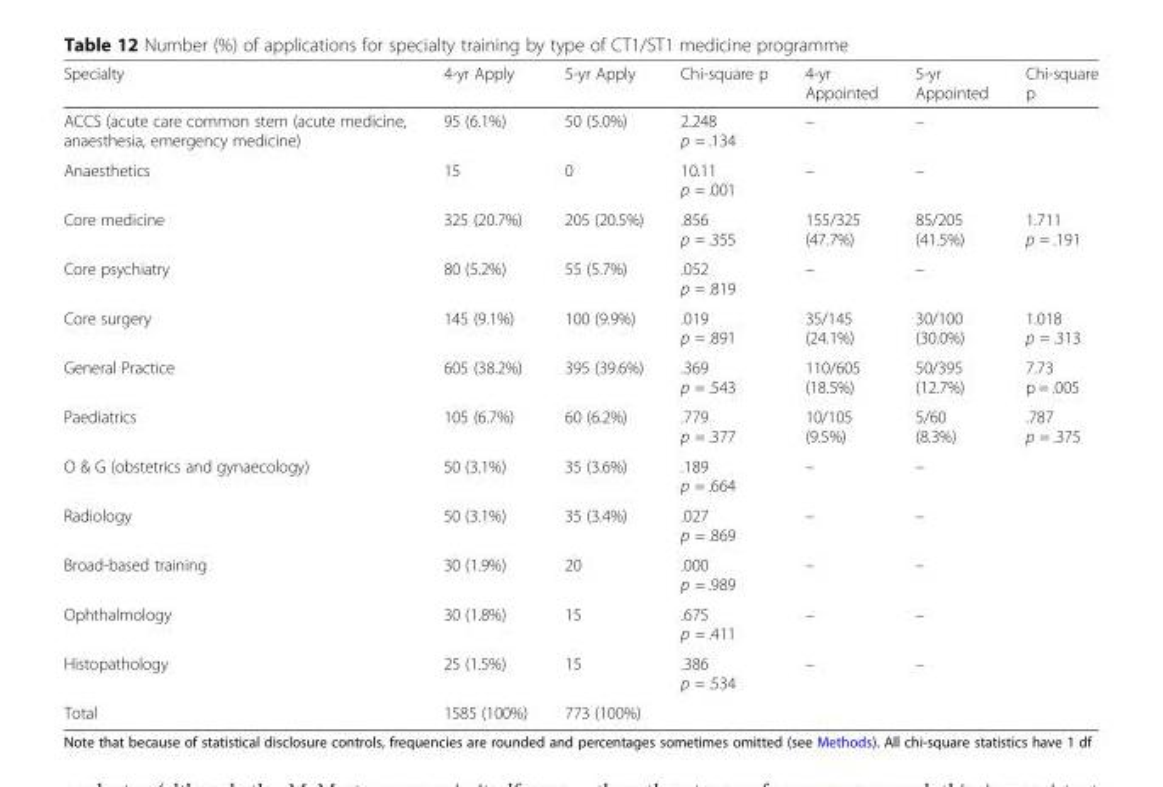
<table><thead><tr><td>Specialty</td><td>4-yr Apply</td><td>5-yr Apply</td><td>Chi-square p</td><td>4-yr Appointed</td><td>5-yr Appointed</td><td>Chi-square p</td></tr></thead><tbody><tr><td>ACCS (acute care common stem (acute medicine, anaesthesia, emergency medicine)</td><td>95 (6.1%)</td><td>50 (5.0%)</td><td>2.248 p = .134</td><td>–</td><td>–</td><td></td></tr><tr><td>Anaesthetics</td><td>15</td><td>0</td><td>10.11 p = .001</td><td>–</td><td>–</td><td></td></tr><tr><td>Core medicine</td><td>325 (20.7%)</td><td>205 (20.5%)</td><td>.856 p = .355</td><td>155/325 (47.7%)</td><td>85/205 (41.5%)</td><td>1.711 p = .191</td></tr><tr><td>Core psychiatry</td><td>80 (5.2%)</td><td>55 (5.7%)</td><td>.052 p = .819</td><td>–</td><td>–</td><td></td></tr><tr><td>Core surgery</td><td>145 (9.1%)</td><td>100 (9.9%)</td><td>.019 p = .891</td><td>35/145 (24.1%)</td><td>30/100 (30.0%)</td><td>1.018 p = .313</td></tr><tr><td>General Practice</td><td>605 (38.2%)</td><td>395 (39.6%)</td><td>.369 p = .543</td><td>110/605 (18.5%)</td><td>50/395 (12.7%)</td><td>7.73 p = .005</td></tr><tr><td>Paediatrics</td><td>105 (6.7%)</td><td>60 (6.2%)</td><td>.779 p = .377</td><td>10/105 (9.5%)</td><td>5/60 (8.3%)</td><td>.787 p = .375</td></tr><tr><td>O &amp; G (obstetrics and gynaecology)</td><td>50 (3.1%)</td><td>35 (3.6%)</td><td>.189 p = .664</td><td>–</td><td>–</td><td></td></tr><tr><td>Radiology</td><td>50 (3.1%)</td><td>35 (3.4%)</td><td>.027 p = .869</td><td>–</td><td>–</td><td></td></tr><tr><td>Broad-based training</td><td>30 (1.9%)</td><td>20</td><td>.000 p = .989</td><td>–</td><td>–</td><td></td></tr><tr><td>Ophthalmology</td><td>30 (1.8%)</td><td>15</td><td>.675 p = .411</td><td>–</td><td>–</td><td></td></tr><tr><td>Histopathology</td><td>25 (1.5%)</td><td>15</td><td>.386 p = .534</td><td>–</td><td>–</td><td></td></tr><tr><td>Total</td><td>1585 (100%)</td><td>773 (100%)</td><td></td><td></td><td></td><td></td></tr></tbody></table>